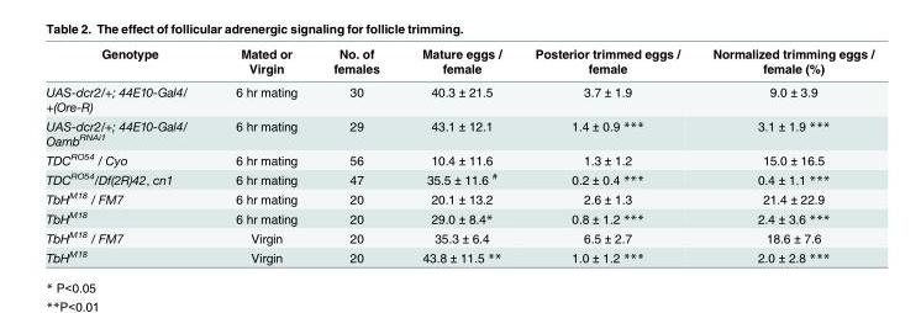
<table><thead><tr><td>Genotype</td><td>Mated or Virgin</td><td>No. of females</td><td>Mature eggs / female</td><td>Posterior trimmed eggs / female</td><td>Normalized trimming eggs / female (%)</td></tr></thead><tbody><tr><td>UAS-dcr2/+; 44E10-Gal4/ +(Ore-R)</td><td>6 hr mating</td><td>30</td><td>40.3 ± 21.5</td><td>3.7 ± 1.9</td><td>9.0 ± 3.9</td></tr><tr><td>UAS-dcr2/+; 44E10-Gal4/ Oamb<sup>RNAi1</sup></td><td>6 hr mating</td><td>29</td><td>43.1 ± 12.1</td><td>1.4 ± 0.9 ***</td><td>3.1 ± 1.9 ***</td></tr><tr><td>TDC<sup>RO54</sup> / Cyo</td><td>6 hr mating</td><td>56</td><td>10.4 ± 11.6</td><td>1.3 ± 1.2</td><td>15.0 ± 16.5</td></tr><tr><td>TDC<sup>RO54</sup>/Df(2R)42, cn1</td><td>6 hr mating</td><td>47</td><td>35.5 ± 11.6 <sup>#</sup></td><td>0.2 ± 0.4 ***</td><td>0.4 ± 1.1 ***</td></tr><tr><td>TbH<sup>M18</sup> / FM7</td><td>6 hr mating</td><td>20</td><td>20.1 ± 13.2</td><td>2.6 ± 1.3</td><td>21.4 ± 22.9</td></tr><tr><td>TbH<sup>M18</sup></td><td>6 hr mating</td><td>20</td><td>29.0 ± 8.4*</td><td>0.8 ± 1.2 ***</td><td>2.4 ± 3.6 ***</td></tr><tr><td>TbH<sup>M18</sup> / FM7</td><td>Virgin</td><td>20</td><td>35.3 ± 6.4</td><td>6.5 ± 2.7</td><td>18.6 ± 7.6</td></tr><tr><td>TbH<sup>M18</sup></td><td>Virgin</td><td>20</td><td>43.8 ± 11.5 **</td><td>1.0 ± 1.2 ***</td><td>2.0 ± 2.8 ***</td></tr></tbody></table>